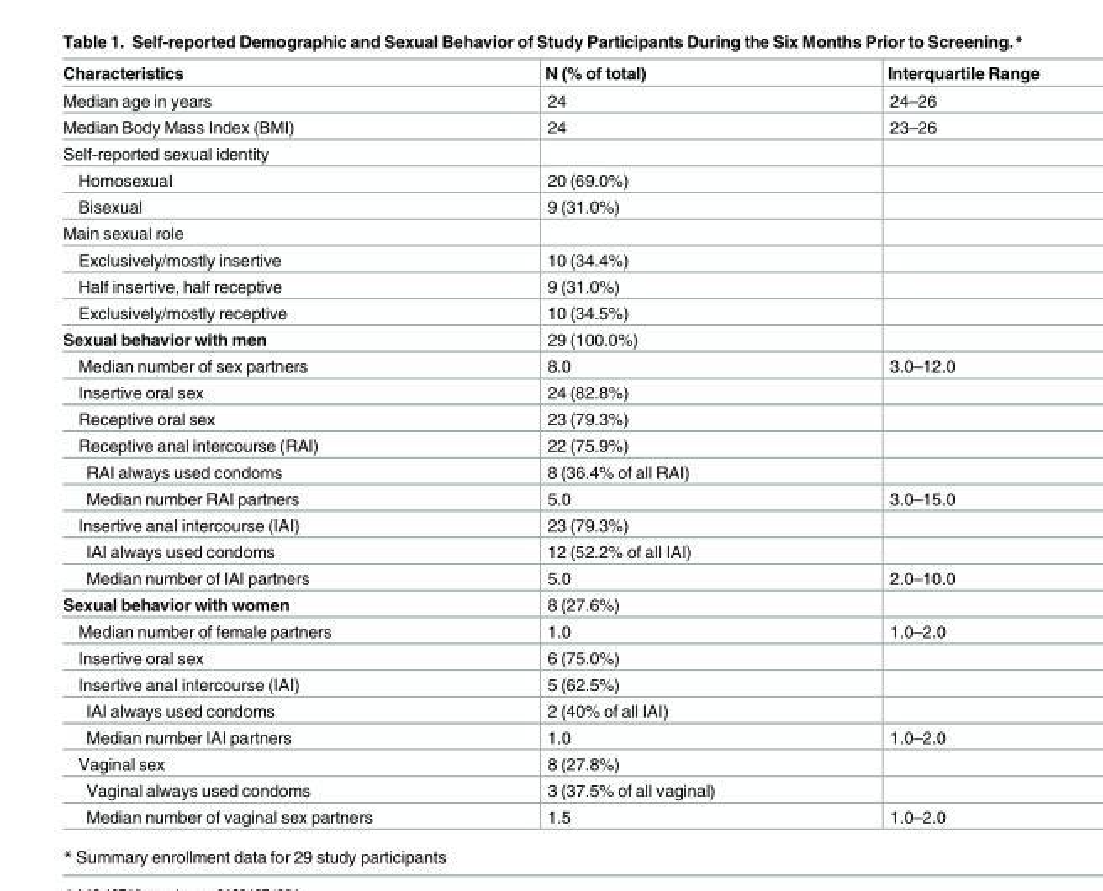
<table><thead><tr><td>Characteristics</td><td>N (% of total)</td><td>Interquartile Range</td></tr></thead><tbody><tr><td>Median age in years</td><td>24</td><td>24–26</td></tr><tr><td>Median Body Mass Index (BMI)</td><td>24</td><td>23–26</td></tr><tr><td colspan="3">Self-reported sexual identity</td></tr><tr><td>Homosexual</td><td>20 (69.0%)</td><td></td></tr><tr><td>Bisexual</td><td>9 (31.0%)</td><td></td></tr><tr><td colspan="3">Main sexual role</td></tr><tr><td>Exclusively/mostly insertive</td><td>10 (34.4%)</td><td></td></tr><tr><td>Half insertive, half receptive</td><td>9 (31.0%)</td><td></td></tr><tr><td>Exclusively/mostly receptive</td><td>10 (34.5%)</td><td></td></tr><tr><td>Sexual behavior with men</td><td>29 (100.0%)</td><td></td></tr><tr><td>Median number of sex partners</td><td>8.0</td><td>3.0–12.0</td></tr><tr><td>Insertive oral sex</td><td>24 (82.8%)</td><td></td></tr><tr><td>Receptive oral sex</td><td>23 (79.3%)</td><td></td></tr><tr><td>Receptive anal intercourse (RAI)</td><td>22 (75.9%)</td><td></td></tr><tr><td>RAI always used condoms</td><td>8 (36.4% of all RAI)</td><td></td></tr><tr><td>Median number RAI partners</td><td>5.0</td><td>3.0–15.0</td></tr><tr><td>Insertive anal intercourse (IAI)</td><td>23 (79.3%)</td><td></td></tr><tr><td>IAI always used condoms</td><td>12 (52.2% of all IAI)</td><td></td></tr><tr><td>Median number of IAI partners</td><td>5.0</td><td>2.0–10.0</td></tr><tr><td>Sexual behavior with women</td><td>8 (27.6%)</td><td></td></tr><tr><td>Median number of female partners</td><td>1.0</td><td>1.0–2.0</td></tr><tr><td>Insertive oral sex</td><td>6 (75.0%)</td><td></td></tr><tr><td>Insertive anal intercourse (IAI)</td><td>5 (62.5%)</td><td></td></tr><tr><td>IAI always used condoms</td><td>2 (40% of all IAI)</td><td></td></tr><tr><td>Median number IAI partners</td><td>1.0</td><td>1.0–2.0</td></tr><tr><td>Vaginal sex</td><td>8 (27.8%)</td><td></td></tr><tr><td>Vaginal always used condoms</td><td>3 (37.5% of all vaginal)</td><td></td></tr><tr><td>Median number of vaginal sex partners</td><td>1.5</td><td>1.0–2.0</td></tr></tbody></table>